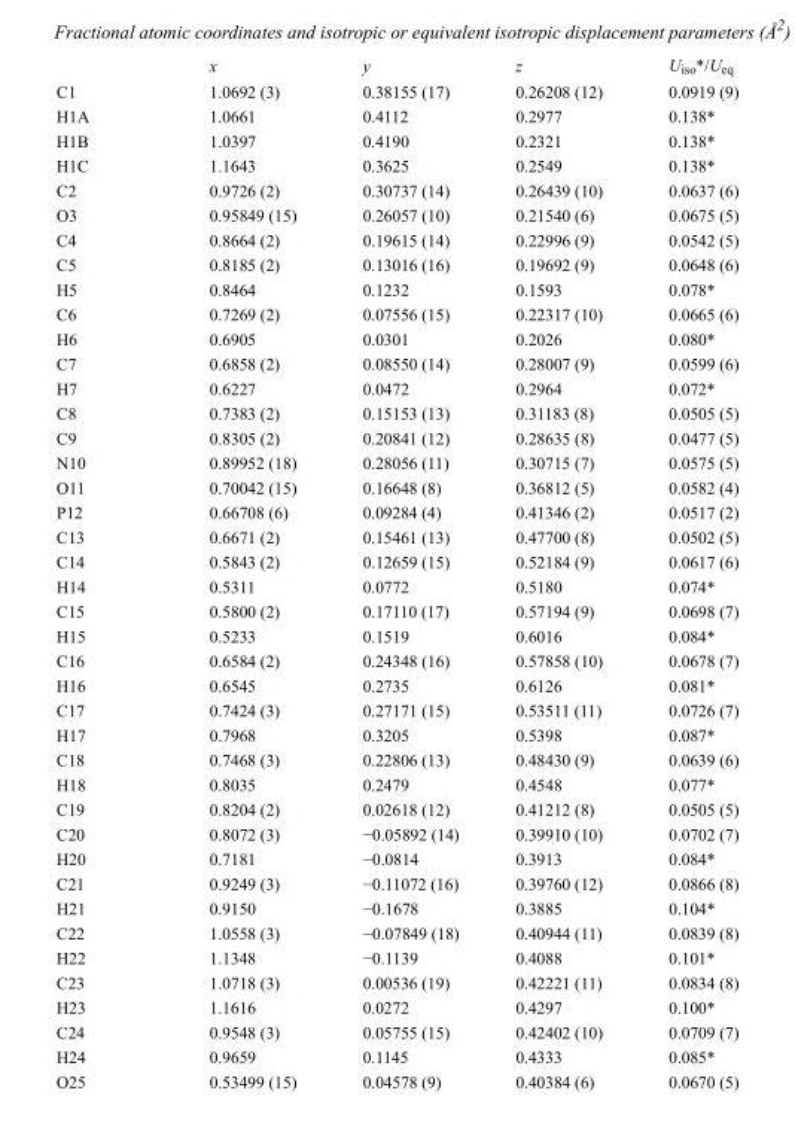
<table><thead><tr><td></td><td>x</td><td>y</td><td>z</td><td>U<sub>iso</sub>*/U<sub>eq</sub></td></tr></thead><tbody><tr><td>C1</td><td>1.0692 (3)</td><td>0.38155 (17)</td><td>0.26208 (12)</td><td>0.0919 (9)</td></tr><tr><td>H1A</td><td>1.0661</td><td>0.4112</td><td>0.2977</td><td>0.138*</td></tr><tr><td>H1B</td><td>1.0397</td><td>0.4190</td><td>0.2321</td><td>0.138*</td></tr><tr><td>H1C</td><td>1.1643</td><td>0.3625</td><td>0.2549</td><td>0.138*</td></tr><tr><td>C2</td><td>0.9726 (2)</td><td>0.30737 (14)</td><td>0.26439 (10)</td><td>0.0637 (6)</td></tr><tr><td>O3</td><td>0.95849 (15)</td><td>0.26057 (10)</td><td>0.21540 (6)</td><td>0.0675 (5)</td></tr><tr><td>C4</td><td>0.8664 (2)</td><td>0.19615 (14)</td><td>0.22996 (9)</td><td>0.0542 (5)</td></tr><tr><td>C5</td><td>0.8185 (2)</td><td>0.13016 (16)</td><td>0.19692 (9)</td><td>0.0648 (6)</td></tr><tr><td>H5</td><td>0.8464</td><td>0.1232</td><td>0.1593</td><td>0.078*</td></tr><tr><td>C6</td><td>0.7269 (2)</td><td>0.07556 (15)</td><td>0.22317 (10)</td><td>0.0665 (6)</td></tr><tr><td>H6</td><td>0.6905</td><td>0.0301</td><td>0.2026</td><td>0.080*</td></tr><tr><td>C7</td><td>0.6858 (2)</td><td>0.08550 (14)</td><td>0.28007 (9)</td><td>0.0599 (6)</td></tr><tr><td>H7</td><td>0.6227</td><td>0.0472</td><td>0.2964</td><td>0.072*</td></tr><tr><td>C8</td><td>0.7383 (2)</td><td>0.15153 (13)</td><td>0.31183 (8)</td><td>0.0505 (5)</td></tr><tr><td>C9</td><td>0.8305 (2)</td><td>0.20841 (12)</td><td>0.28635 (8)</td><td>0.0477 (5)</td></tr><tr><td>N10</td><td>0.89952 (18)</td><td>0.28056 (11)</td><td>0.30715 (7)</td><td>0.0575 (5)</td></tr><tr><td>O11</td><td>0.70042 (15)</td><td>0.16648 (8)</td><td>0.36812 (5)</td><td>0.0582 (4)</td></tr><tr><td>P12</td><td>0.66708 (6)</td><td>0.09284 (4)</td><td>0.41346 (2)</td><td>0.0517 (2)</td></tr><tr><td>C13</td><td>0.6671 (2)</td><td>0.15461 (13)</td><td>0.47700 (8)</td><td>0.0502 (5)</td></tr><tr><td>C14</td><td>0.5843 (2)</td><td>0.12659 (15)</td><td>0.52184 (9)</td><td>0.0617 (6)</td></tr><tr><td>H14</td><td>0.5311</td><td>0.0772</td><td>0.5180</td><td>0.074*</td></tr><tr><td>C15</td><td>0.5800 (2)</td><td>0.17110 (17)</td><td>0.57194 (9)</td><td>0.0698 (7)</td></tr><tr><td>H15</td><td>0.5233</td><td>0.1519</td><td>0.6016</td><td>0.084*</td></tr><tr><td>C16</td><td>0.6584 (2)</td><td>0.24348 (16)</td><td>0.57858 (10)</td><td>0.0678 (7)</td></tr><tr><td>H16</td><td>0.6545</td><td>0.2735</td><td>0.6126</td><td>0.081*</td></tr><tr><td>C17</td><td>0.7424 (3)</td><td>0.27171 (15)</td><td>0.53511 (11)</td><td>0.0726 (7)</td></tr><tr><td>H17</td><td>0.7968</td><td>0.3205</td><td>0.5398</td><td>0.087*</td></tr><tr><td>C18</td><td>0.7468 (3)</td><td>0.22806 (13)</td><td>0.48430 (9)</td><td>0.0639 (6)</td></tr><tr><td>H18</td><td>0.8035</td><td>0.2479</td><td>0.4548</td><td>0.077*</td></tr><tr><td>C19</td><td>0.8204 (2)</td><td>0.02618 (12)</td><td>0.41212 (8)</td><td>0.0505 (5)</td></tr><tr><td>C20</td><td>0.8072 (3)</td><td>−0.05892 (14)</td><td>0.39910 (10)</td><td>0.0702 (7)</td></tr><tr><td>H20</td><td>0.7181</td><td>−0.0814</td><td>0.3913</td><td>0.084*</td></tr><tr><td>C21</td><td>0.9249 (3)</td><td>−0.11072 (16)</td><td>0.39760 (12)</td><td>0.0866 (8)</td></tr><tr><td>H21</td><td>0.9150</td><td>−0.1678</td><td>0.3885</td><td>0.104*</td></tr><tr><td>C22</td><td>1.0558 (3)</td><td>−0.07849 (18)</td><td>0.40944 (11)</td><td>0.0839 (8)</td></tr><tr><td>H22</td><td>1.1348</td><td>−0.1139</td><td>0.4088</td><td>0.101*</td></tr><tr><td>C23</td><td>1.0718 (3)</td><td>0.00536 (19)</td><td>0.42221 (11)</td><td>0.0834 (8)</td></tr><tr><td>H23</td><td>1.1616</td><td>0.0272</td><td>0.4297</td><td>0.100*</td></tr><tr><td>C24</td><td>0.9548 (3)</td><td>0.05755 (15)</td><td>0.42402 (10)</td><td>0.0709 (7)</td></tr><tr><td>H24</td><td>0.9659</td><td>0.1145</td><td>0.4333</td><td>0.085*</td></tr><tr><td>O25</td><td>0.53499 (15)</td><td>0.04578 (9)</td><td>0.40384 (6)</td><td>0.0670 (5)</td></tr></tbody></table>